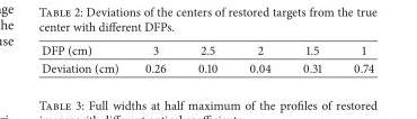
<table><thead><tr><td>DFP (cm)</td><td>3</td><td>2.5</td><td>2</td><td>1.5</td><td>1</td></tr></thead><tbody><tr><td>Deviation (cm)</td><td>0.26</td><td>0.10</td><td>0.04</td><td>0.31</td><td>0.74</td></tr></tbody></table>